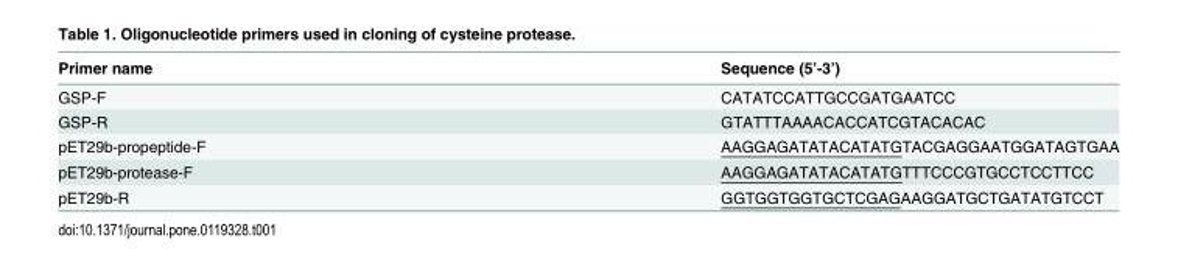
<table><thead><tr><td>Primer name</td><td>Sequence (5’-3’)</td></tr></thead><tbody><tr><td>GSP-F</td><td>CATATCCATTGCCGATGAATCC</td></tr><tr><td>GSP-R</td><td>GTATTTAAAACACCATCGTACACAC</td></tr><tr><td>pET29b-propeptide-F</td><td>AAGGAGATATACATATGTACGAGGAATGGATAGTGAA</td></tr><tr><td>pET29b-protease-F</td><td>AAGGAGATATACATATGTTTCCCGTGCCTCCTTCC</td></tr><tr><td>pET29b-R</td><td>GGTGGTGGTGCTCGAGAAGGATGCTGATATGTCCT</td></tr></tbody></table>